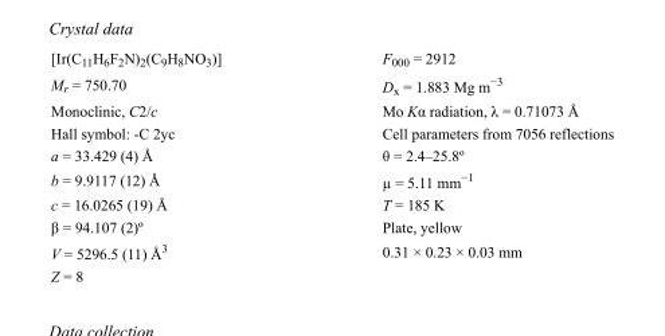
<table><tbody><tr><td>[Ir(C<sub>11</sub>H<sub>6</sub>F<sub>2</sub>N)<sub>2</sub>(C<sub>9</sub>H<sub>8</sub>NO<sub>3</sub>)]</td><td>F000 = 2912</td></tr><tr><td>M<sub>r</sub> = 750.70</td><td>D<sub>x</sub> = 1.883 Mg m<sup>−3</sup></td></tr><tr><td>Monoclinic, C2/c</td><td>Mo Kα radiation, λ = 0.71073 Å</td></tr><tr><td>Hall symbol: -C 2yc</td><td>Cell parameters from 7056 reflections</td></tr><tr><td>a = 33.429 (4) Å</td><td>θ = 2.4–25.8º</td></tr><tr><td>b = 9.9117 (12) Å</td><td>µ = 5.11 mm<sup>−1</sup></td></tr><tr><td>c = 16.0265 (19) Å</td><td>T = 185 K</td></tr><tr><td>β = 94.107 (2)º</td><td>Plate, yellow</td></tr><tr><td>V = 5296.5 (11) Å<sup>3</sup></td><td>0.31 × 0.23 × 0.03 mm</td></tr><tr><td>Z = 8</td><td></td></tr></tbody></table>